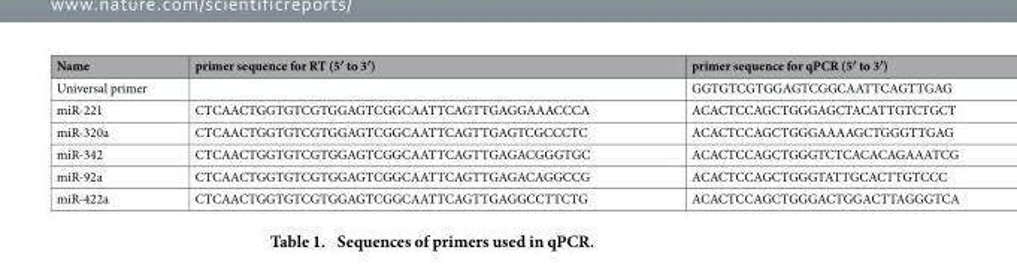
<table><thead><tr><td>Name</td><td>primer sequence for RT (5′ to 3′)</td><td>primer sequence for qPCR (5′ to 3′)</td></tr></thead><tbody><tr><td>Universal primer</td><td></td><td>GGTGTCGTGGAGTCGGCAATTCAGTTGAG</td></tr><tr><td>miR-221</td><td>CTCAACTGGTGTCGTGGAGTCGGCAATTCAGTTGAGGAAACCCA</td><td>ACACTCCAGCTGGGAGCTACATTGTCTGCT</td></tr><tr><td>miR-320a</td><td>CTCAACTGGTGTCGTGGAGTCGGCAATTCAGTTGAGTCGCCCTC</td><td>ACACTCCAGCTGGGAAAAGCTGGGTTGAG</td></tr><tr><td>miR-342</td><td>CTCAACTGGTGTCGTGGAGTCGGCAATTCAGTTGAGACGGGTGC</td><td>ACACTCCAGCTGGGTCTCACACAGAAATCG</td></tr><tr><td>miR-92a</td><td>CTCAACTGGTGTCGTGGAGTCGGCAATTCAGTTGAGACAGGCCG</td><td>ACACTCCAGCTGGGTATTGCACTTGTCCC</td></tr><tr><td>miR-422a</td><td>CTCAACTGGTGTCGTGGAGTCGGCAATTCAGTTGAGGCCTTCTG</td><td>ACACTCCAGCTGGGACTGGACTTAGGGTCA</td></tr></tbody></table>